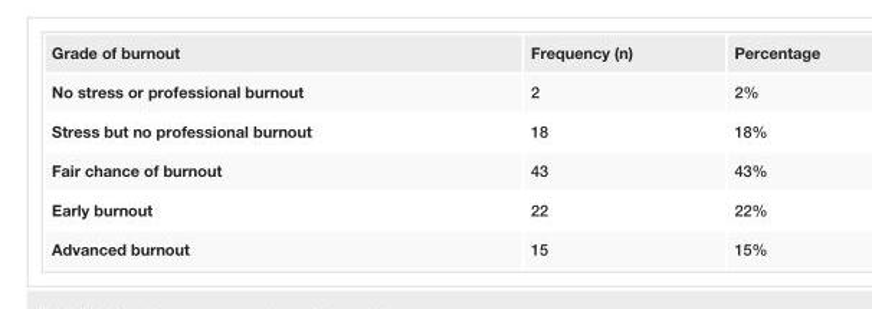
<table><tbody><tr><td>Grade of burnout</td><td>Frequency (n)</td><td>Percentage</td></tr><tr><td>No stress or professional burnout</td><td>2</td><td>2%</td></tr><tr><td>Stress but no professional burnout</td><td>18</td><td>18%</td></tr><tr><td>Fair chance of burnout</td><td>43</td><td>43%</td></tr><tr><td>Early burnout</td><td>22</td><td>22%</td></tr><tr><td>Advanced burnout</td><td>15</td><td>15%</td></tr></tbody></table>